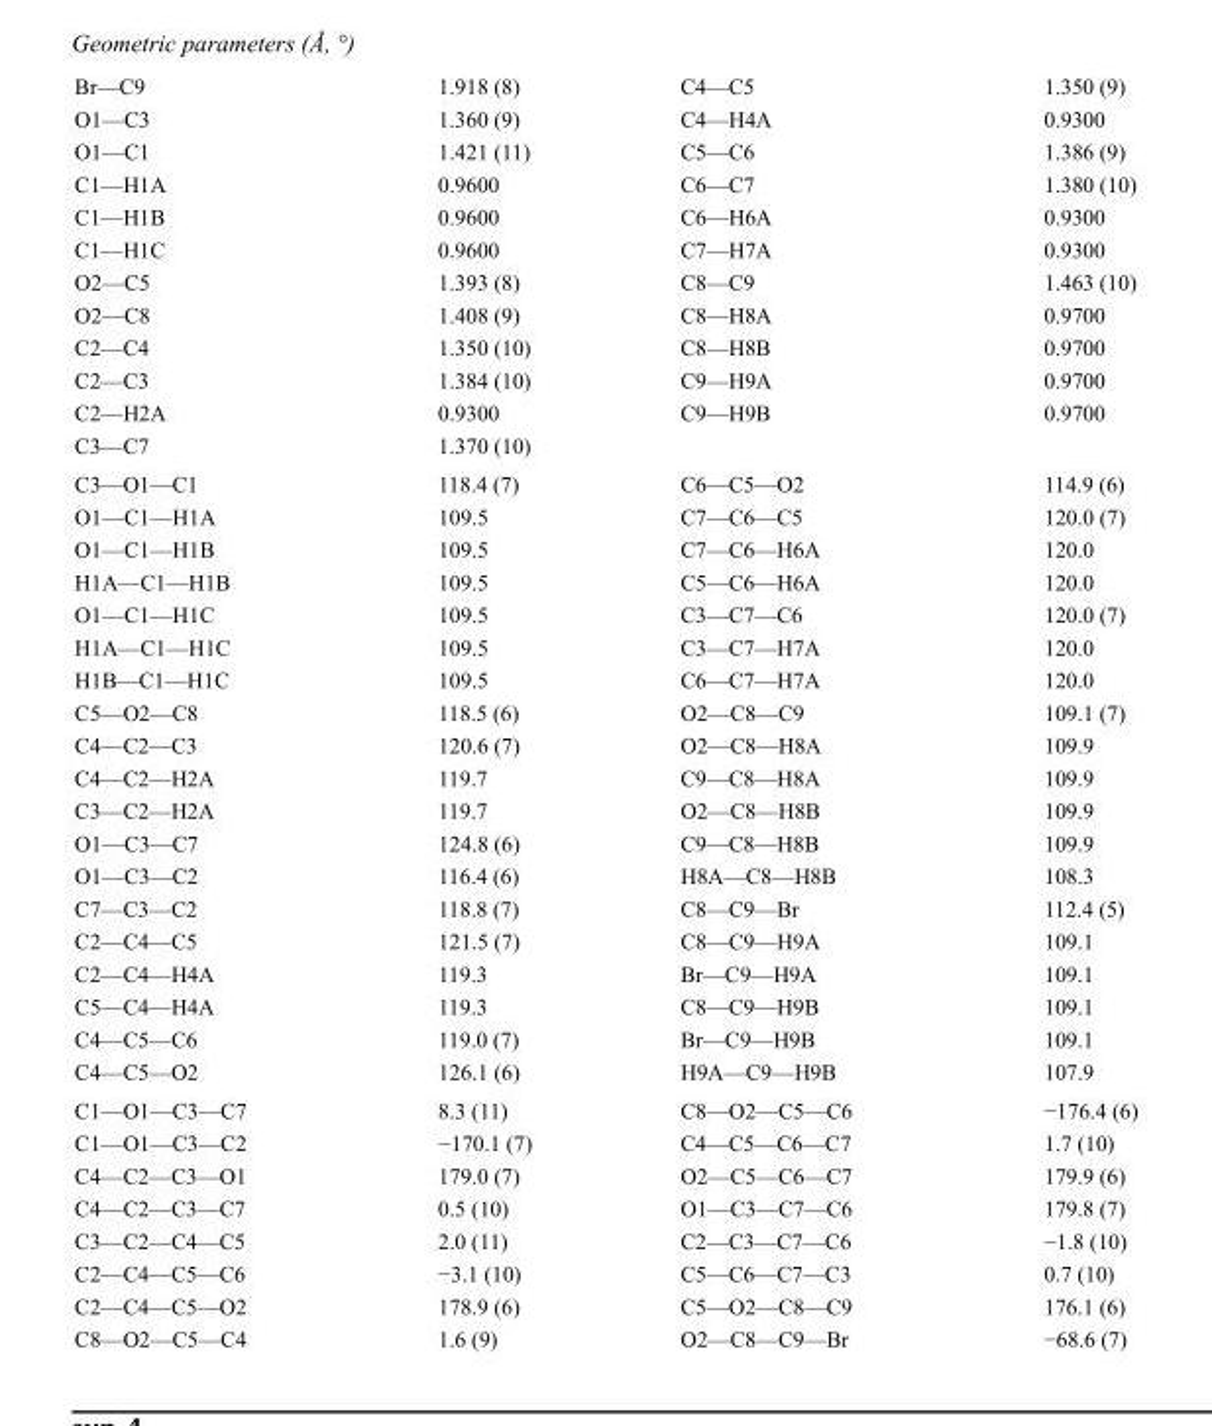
<table><tbody><tr><td>Br—C9</td><td>1.918 (8)</td><td>C4—C5</td><td>1.350 (9)</td></tr><tr><td>O1—C3</td><td>1.360 (9)</td><td>C4—H4A</td><td>0.9300</td></tr><tr><td>O1—C1</td><td>1.421 (11)</td><td>C5—C6</td><td>1.386 (9)</td></tr><tr><td>C1—H1A</td><td>0.9600</td><td>C6—C7</td><td>1.380 (10)</td></tr><tr><td>C1—H1B</td><td>0.9600</td><td>C6—H6A</td><td>0.9300</td></tr><tr><td>C1—H1C</td><td>0.9600</td><td>C7—H7A</td><td>0.9300</td></tr><tr><td>O2—C5</td><td>1.393 (8)</td><td>C8—C9</td><td>1.463 (10)</td></tr><tr><td>O2—C8</td><td>1.408 (9)</td><td>C8—H8A</td><td>0.9700</td></tr><tr><td>C2—C4</td><td>1.350 (10)</td><td>C8—H8B</td><td>0.9700</td></tr><tr><td>C2—C3</td><td>1.384 (10)</td><td>C9—H9A</td><td>0.9700</td></tr><tr><td>C2—H2A</td><td>0.9300</td><td>C9—H9B</td><td>0.9700</td></tr><tr><td>C3—C7</td><td>1.370 (10)</td><td></td><td></td></tr><tr><td>C3—O1—C1</td><td>118.4 (7)</td><td>C6—C5—O2</td><td>114.9 (6)</td></tr><tr><td>O1—C1—H1A</td><td>109.5</td><td>C7—C6—C5</td><td>120.0 (7)</td></tr><tr><td>O1—C1—H1B</td><td>109.5</td><td>C7—C6—H6A</td><td>120.0</td></tr><tr><td>H1A—C1—H1B</td><td>109.5</td><td>C5—C6—H6A</td><td>120.0</td></tr><tr><td>O1—C1—H1C</td><td>109.5</td><td>C3—C7—C6</td><td>120.0 (7)</td></tr><tr><td>H1A—C1—H1C</td><td>109.5</td><td>C3—C7—H7A</td><td>120.0</td></tr><tr><td>H1B—C1—H1C</td><td>109.5</td><td>C6—C7—H7A</td><td>120.0</td></tr><tr><td>C5—O2—C8</td><td>118.5 (6)</td><td>O2—C8—C9</td><td>109.1 (7)</td></tr><tr><td>C4—C2—C3</td><td>120.6 (7)</td><td>O2—C8—H8A</td><td>109.9</td></tr><tr><td>C4—C2—H2A</td><td>119.7</td><td>C9—C8—H8A</td><td>109.9</td></tr><tr><td>C3—C2—H2A</td><td>119.7</td><td>O2—C8—H8B</td><td>109.9</td></tr><tr><td>O1—C3—C7</td><td>124.8 (6)</td><td>C9—C8—H8B</td><td>109.9</td></tr><tr><td>O1—C3—C2</td><td>116.4 (6)</td><td>H8A—C8—H8B</td><td>108.3</td></tr><tr><td>C7—C3—C2</td><td>118.8 (7)</td><td>C8—C9—Br</td><td>112.4 (5)</td></tr><tr><td>C2—C4—C5</td><td>121.5 (7)</td><td>C8—C9—H9A</td><td>109.1</td></tr><tr><td>C2—C4—H4A</td><td>119.3</td><td>Br—C9—H9A</td><td>109.1</td></tr><tr><td>C5—C4—H4A</td><td>119.3</td><td>C8—C9—H9B</td><td>109.1</td></tr><tr><td>C4—C5—C6</td><td>119.0 (7)</td><td>Br—C9—H9B</td><td>109.1</td></tr><tr><td>C4—C5—O2</td><td>126.1 (6)</td><td>H9A—C9—H9B</td><td>107.9</td></tr><tr><td>C1—O1—C3—C7</td><td>8.3 (11)</td><td>C8—O2—C5—C6</td><td>−176.4 (6)</td></tr><tr><td>C1—O1—C3—C2</td><td>−170.1 (7)</td><td>C4—C5—C6—C7</td><td>1.7 (10)</td></tr><tr><td>C4—C2—C3—O1</td><td>179.0 (7)</td><td>O2—C5—C6—C7</td><td>179.9 (6)</td></tr><tr><td>C4—C2—C3—C7</td><td>0.5 (10)</td><td>O1—C3—C7—C6</td><td>179.8 (7)</td></tr><tr><td>C3—C2—C4—C5</td><td>2.0 (11)</td><td>C2—C3—C7—C6</td><td>−1.8 (10)</td></tr><tr><td>C2—C4—C5—C6</td><td>−3.1 (10)</td><td>C5—C6—C7—C3</td><td>0.7 (10)</td></tr><tr><td>C2—C4—C5—O2</td><td>178.9 (6)</td><td>C5—O2—C8—C9</td><td>176.1 (6)</td></tr><tr><td>C8—O2—C5—C4</td><td>1.6 (9)</td><td>O2—C8—C9—Br</td><td>−68.6 (7)</td></tr></tbody></table>